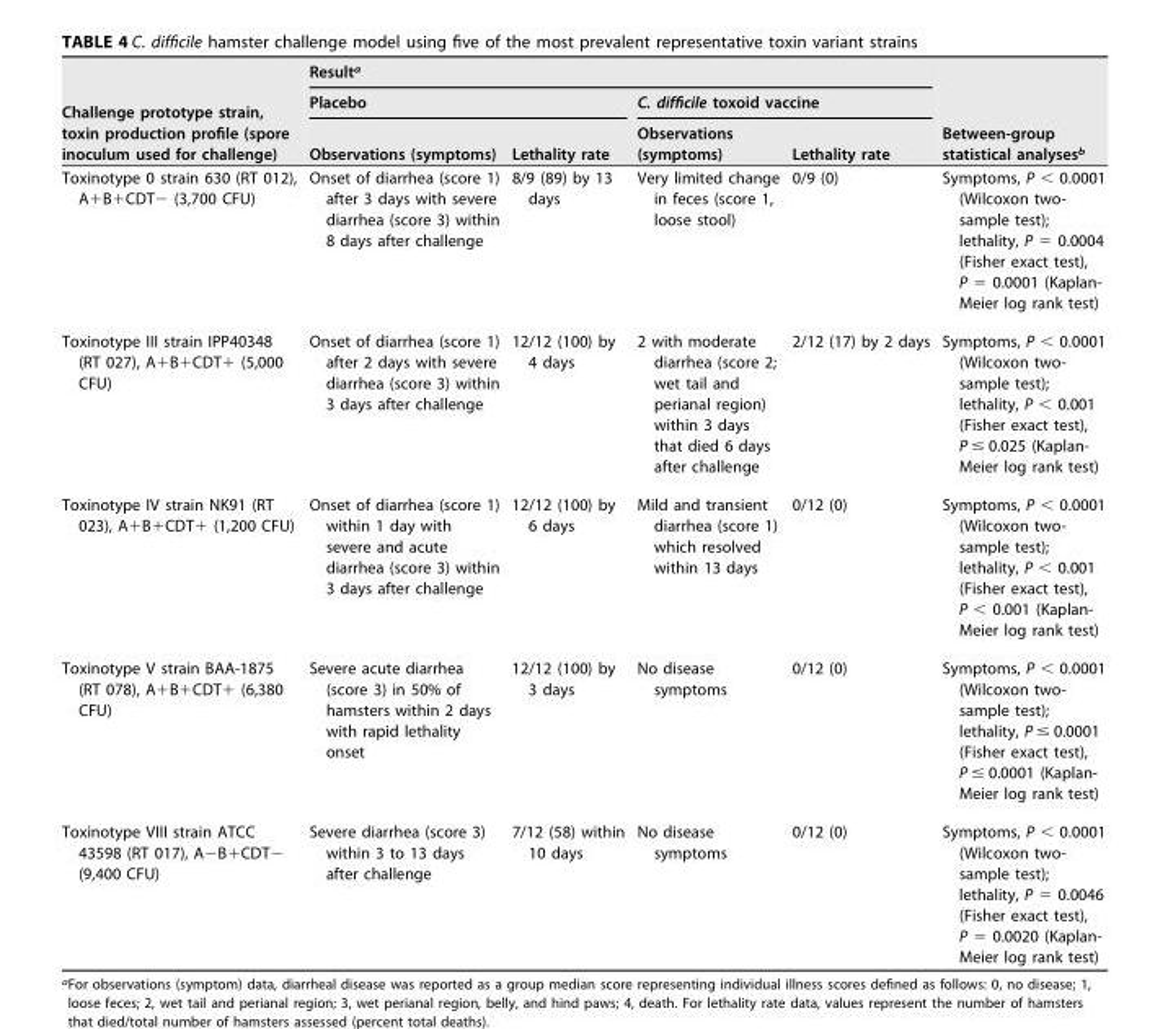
<table><thead><tr><td rowspan="3">Challenge prototype strain, toxin production profile (spore inoculum used for challenge)</td><td colspan="4">Result<sup>a</sup></td><td rowspan="3">Between-group statistical analyses<sup>b</sup></td></tr><tr><td colspan="2">Placebo</td><td colspan="2">C. difficile toxoid vaccine</td></tr><tr><td>Observations (symptoms)</td><td>Lethality rate</td><td>Observations (symptoms)</td><td>Lethality rate</td></tr></thead><tbody><tr><td>Toxinotype 0 strain 630 (RT 012), A+B+CDT− (3,700 CFU)</td><td>Onset of diarrhea (score 1) after 3 days with severe diarrhea (score 3) within 8 days after challenge</td><td>8/9 (89) by 13 days</td><td>Very limited change in feces (score 1, loose stool)</td><td>0/9 (0)</td><td>Symptoms, P &lt; 0.0001 (Wilcoxon two- sample test); lethality, P = 0.0004 (Fisher exact test), P = 0.0001 (Kaplan- Meier log rank test)</td></tr><tr><td>Toxinotype III strain IPP40348 (RT 027), A+B+CDT+ (5,000 CFU)</td><td>Onset of diarrhea (score 1) after 2 days with severe diarrhea (score 3) within 3 days after challenge</td><td>12/12 (100) by 4 days</td><td>2 with moderate diarrhea (score 2; wet tail and perianal region) within 3 days that died 6 days after challenge</td><td>2/12 (17) by 2 days</td><td>Symptoms, P &lt; 0.0001 (Wilcoxon two- sample test); lethality, P &lt; 0.001 (Fisher exact test), P ≤ 0.025 (Kaplan- Meier log rank test)</td></tr><tr><td>Toxinotype IV strain NK91 (RT 023), A+B+CDT+ (1,200 CFU)</td><td>Onset of diarrhea (score 1) within 1 day with severe and acute diarrhea (score 3) within 3 days after challenge</td><td>12/12 (100) by 6 days</td><td>Mild and transient diarrhea (score 1) which resolved within 13 days</td><td>0/12 (0)</td><td>Symptoms, P &lt; 0.0001 (Wilcoxon two- sample test); lethality, P &lt; 0.001 (Fisher exact test), P &lt; 0.001 (Kaplan- Meier log rank test)</td></tr><tr><td>Toxinotype V strain BAA-1875 (RT 078), A+B+CDT+ (6,380 CFU)</td><td>Severe acute diarrhea (score 3) in 50% of hamsters within 2 days with rapid lethality onset</td><td>12/12 (100) by 3 days</td><td>No disease symptoms</td><td>0/12 (0)</td><td>Symptoms, P &lt; 0.0001 (Wilcoxon two- sample test); lethality, P ≤ 0.0001 (Fisher exact test), P ≤ 0.0001 (Kaplan- Meier log rank test)</td></tr><tr><td>Toxinotype VIII strain ATCC 43598 (RT 017), A−B+CDT− (9,400 CFU)</td><td>Severe diarrhea (score 3) within 3 to 13 days after challenge</td><td>7/12 (58) within 10 days</td><td>No disease symptoms</td><td>0/12 (0)</td><td>Symptoms, P &lt; 0.0001 (Wilcoxon two- sample test); lethality, P = 0.0046 (Fisher exact test), P = 0.0020 (Kaplan- Meier log rank test)</td></tr></tbody></table>